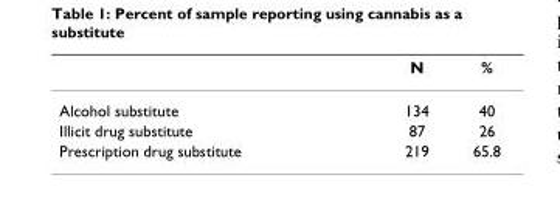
<table><thead><tr><td></td><td>N</td><td>%</td></tr></thead><tbody><tr><td>Alcohol substitute</td><td>134</td><td>40</td></tr><tr><td>Illicit drug substitute</td><td>87</td><td>26</td></tr><tr><td>Prescription drug substitute</td><td>219</td><td>65.8</td></tr></tbody></table>